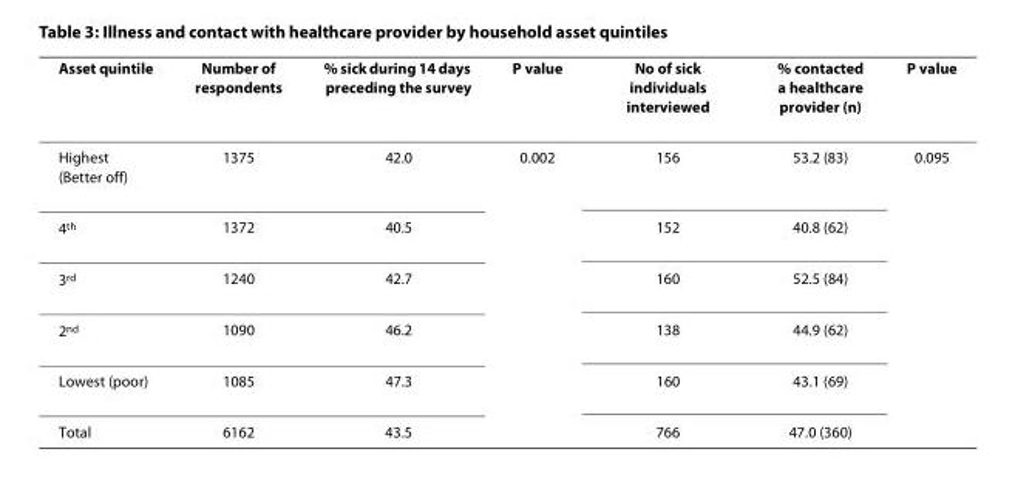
<table><thead><tr><td>Asset quintile</td><td>Number of respondents</td><td>% sick during 14 days preceding the survey</td><td>P value</td><td>No of sick individuals interviewed</td><td>% contacted a healthcare provider (n)</td><td>P value</td></tr></thead><tbody><tr><td>Highest (Better off)</td><td>1375</td><td>42.0</td><td>0.002</td><td>156</td><td>53.2 (83)</td><td>0.095</td></tr><tr><td>4<sup>th</sup></td><td>1372</td><td>40.5</td><td></td><td>152</td><td>40.8 (62)</td><td></td></tr><tr><td>3<sup>rd</sup></td><td>1240</td><td>42.7</td><td></td><td>160</td><td>52.5 (84)</td><td></td></tr><tr><td>2<sup>nd</sup></td><td>1090</td><td>46.2</td><td></td><td>138</td><td>44.9 (62)</td><td></td></tr><tr><td>Lowest (poor)</td><td>1085</td><td>47.3</td><td></td><td>160</td><td>43.1 (69)</td><td></td></tr><tr><td>Total</td><td>6162</td><td>43.5</td><td></td><td>766</td><td>47.0 (360)</td><td></td></tr></tbody></table>